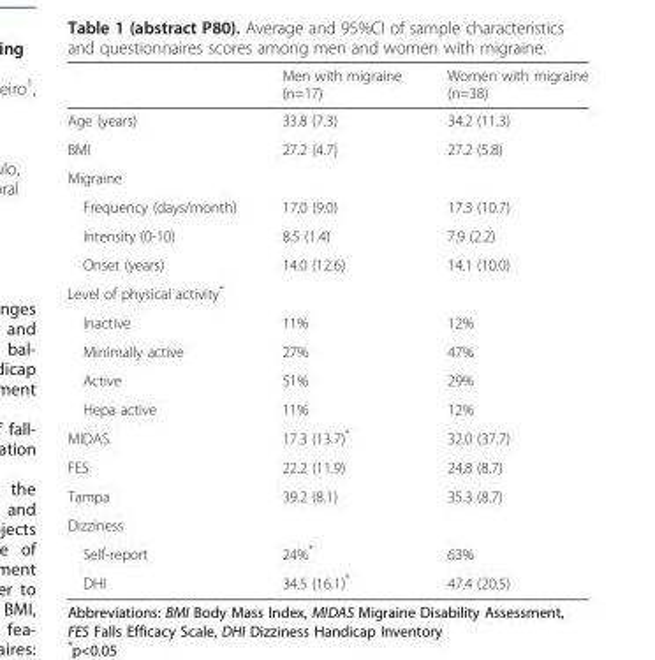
<table><thead><tr><td></td><td>Men with migraine (n=17)</td><td>Women with migraine (n=38)</td></tr></thead><tbody><tr><td>Age (years)</td><td>33.8 (7.3)</td><td>34.2 (11.3)</td></tr><tr><td>BMI</td><td>27.2 (4.7)</td><td>27.2 (5.8)</td></tr><tr><td colspan="3">Migraine</td></tr><tr><td>Frequency (days/month)</td><td>17.0 (9.0)</td><td>17.3 (10.7)</td></tr><tr><td>Intensity (0-10)</td><td>8.5 (1.4)</td><td>7.9 (2.2)</td></tr><tr><td>Onset (years)</td><td>14.0 (12.6)</td><td>14.1 (10.0)</td></tr><tr><td colspan="3">Level of physical activity*</td></tr><tr><td>Inactive</td><td>11%</td><td>12%</td></tr><tr><td>Minimally active</td><td>27%</td><td>47%</td></tr><tr><td>Active</td><td>51%</td><td>29%</td></tr><tr><td>Hepa active</td><td>11%</td><td>12%</td></tr><tr><td>MIDAS</td><td>17.3 (13.7)*</td><td>32.0 (37.7)</td></tr><tr><td>FES</td><td>22.2 (11.9)</td><td>24.8 (8.7)</td></tr><tr><td>Tampa</td><td>39.2 (8.1)</td><td>35.3 (8.7)</td></tr><tr><td colspan="3">Dizziness</td></tr><tr><td>Self-report</td><td>24%*</td><td>63%</td></tr><tr><td>DHI</td><td>34.5 (16.1)*</td><td>47.4 (20.5)</td></tr></tbody></table>